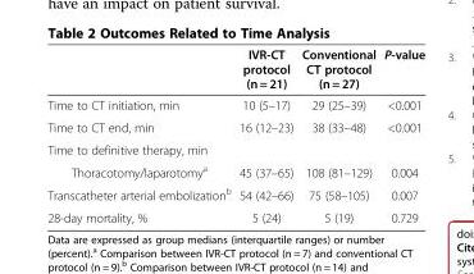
<table><thead><tr><td></td><td>IVR-CT protocol (n = 21)</td><td>Conventional CT protocol (n = 27)</td><td>P-value</td></tr></thead><tbody><tr><td>Time to CT initiation, min</td><td>10 (5–17)</td><td>29 (25–39)</td><td>&lt;0.001</td></tr><tr><td>Time to CT end, min</td><td>16 (12–23)</td><td>38 (33–48)</td><td>&lt;0.001</td></tr><tr><td colspan="4">Time to definitive therapy, min</td></tr><tr><td>Thoracotomy/laparotomy<sup>a</sup></td><td>45 (37–65)</td><td>108 (81–129)</td><td>0.004</td></tr><tr><td>Transcatheter arterial embolization<sup>b</sup></td><td>54 (42–66)</td><td>75 (58–105)</td><td>0.007</td></tr><tr><td>28-day mortality, %</td><td>5 (24)</td><td>5 (19)</td><td>0.729</td></tr></tbody></table>